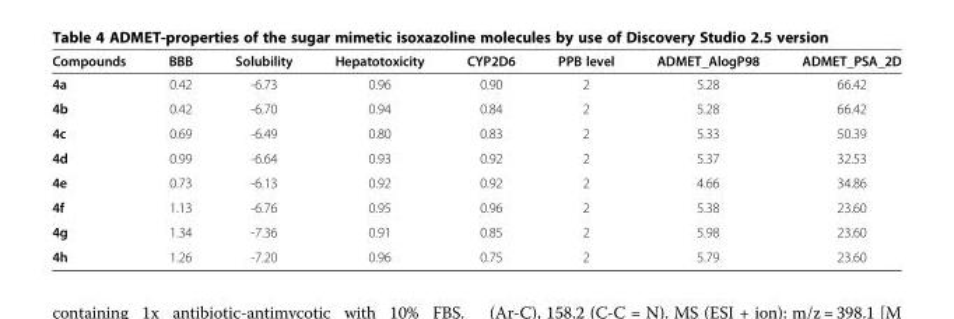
<table><thead><tr><td>Compounds</td><td>BBB</td><td>Solubility</td><td>Hepatotoxicity</td><td>CYP2D6</td><td>PPB level</td><td>ADMET_AlogP98</td><td>ADMET_PSA_2D</td></tr></thead><tbody><tr><td>4a</td><td>0.42</td><td>-6.73</td><td>0.96</td><td>0.90</td><td>2</td><td>5.28</td><td>66.42</td></tr><tr><td>4b</td><td>0.42</td><td>-6.70</td><td>0.94</td><td>0.84</td><td>2</td><td>5.28</td><td>66.42</td></tr><tr><td>4c</td><td>0.69</td><td>-6.49</td><td>0.80</td><td>0.83</td><td>2</td><td>5.33</td><td>50.39</td></tr><tr><td>4d</td><td>0.99</td><td>-6.64</td><td>0.93</td><td>0.92</td><td>2</td><td>5.37</td><td>32.53</td></tr><tr><td>4e</td><td>0.73</td><td>-6.13</td><td>0.92</td><td>0.92</td><td>2</td><td>4.66</td><td>34.86</td></tr><tr><td>4f</td><td>1.13</td><td>-6.76</td><td>0.95</td><td>0.96</td><td>2</td><td>5.38</td><td>23.60</td></tr><tr><td>4g</td><td>1.34</td><td>-7.36</td><td>0.91</td><td>0.85</td><td>2</td><td>5.98</td><td>23.60</td></tr><tr><td>4h</td><td>1.26</td><td>-7.20</td><td>0.96</td><td>0.75</td><td>2</td><td>5.79</td><td>23.60</td></tr></tbody></table>